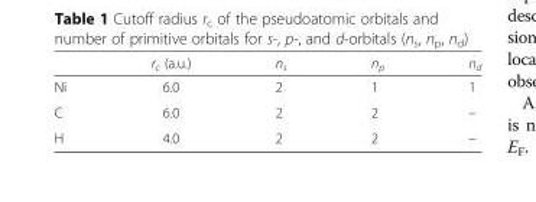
<table><thead><tr><td></td><td>r<sub>c</sub> (a.u.)</td><td>n<sub>s</sub></td><td>n<sub>p</sub></td><td>n<sub>d</sub></td></tr></thead><tbody><tr><td>Ni</td><td>6.0</td><td>2</td><td>1</td><td>1</td></tr><tr><td>C</td><td>6.0</td><td>2</td><td>2</td><td>–</td></tr><tr><td>H</td><td>4.0</td><td>2</td><td>2</td><td>–</td></tr></tbody></table>